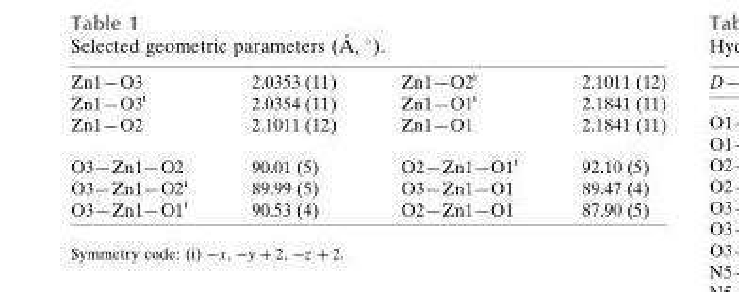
<table><tbody><tr><td>Zn1—O3</td><td>2.0353 (11)</td><td>Zn1—O2<sup>i</sup></td><td>2.1011 (12)</td></tr><tr><td>Zn1—O3<sup>i</sup></td><td>2.0354 (11)</td><td>Zn1—O1<sup>i</sup></td><td>2.1841 (11)</td></tr><tr><td>Zn1—O2</td><td>2.1011 (12)</td><td>Zn1—O1</td><td>2.1841 (11)</td></tr><tr><td>O3—Zn1—O2</td><td>90.01 (5)</td><td>O2—Zn1—O1<sup>i</sup></td><td>92.10 (5)</td></tr><tr><td>O3—Zn1—O2<sup>i</sup></td><td>89.99 (5)</td><td>O3—Zn1—O1</td><td>89.47 (4)</td></tr><tr><td>O3—Zn1—O1<sup>i</sup></td><td>90.53 (4)</td><td>O2—Zn1—O1</td><td>87.90 (5)</td></tr></tbody></table>